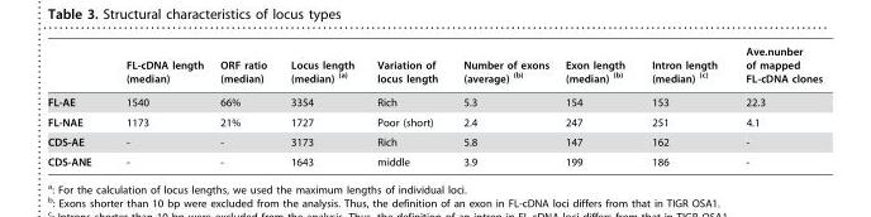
<table><thead><tr><td></td><td>FL-cDNA length (median)</td><td>ORF ratio (median)</td><td>Locus length (median) (a)</td><td>Variation of locus length</td><td>Number of exons (average) (b)</td><td>Exon length (median) (b)</td><td>Intron length (median) (c)</td><td>Ave.nunber of mapped FL-cDNA clones</td></tr></thead><tbody><tr><td>FL-AE</td><td>1540</td><td>66%</td><td>3354</td><td>Rich</td><td>5.3</td><td>154</td><td>153</td><td>22.3</td></tr><tr><td>FL-NAE</td><td>1173</td><td>21%</td><td>1727</td><td>Poor (short)</td><td>2.4</td><td>247</td><td>251</td><td>4.1</td></tr><tr><td>CDS-AE</td><td>-</td><td>-</td><td>3173</td><td>Rich</td><td>5.8</td><td>147</td><td>162</td><td>-</td></tr><tr><td>CDS-ANE</td><td>-</td><td>-</td><td>1643</td><td>middle</td><td>3.9</td><td>199</td><td>186</td><td>-</td></tr></tbody></table>